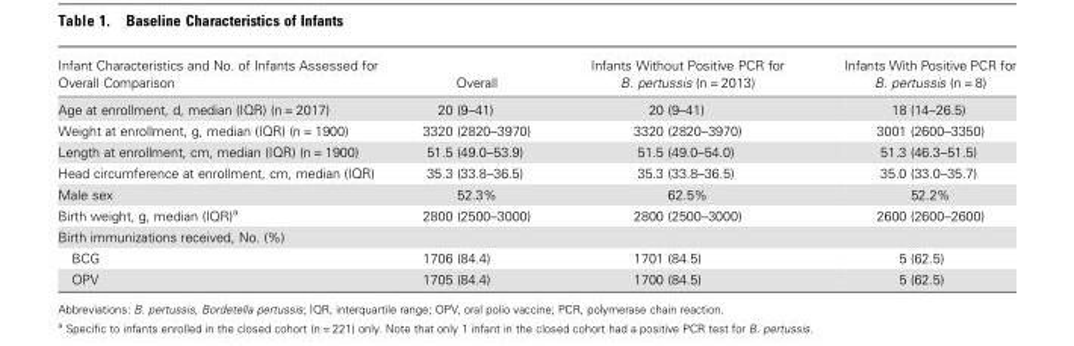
<table><thead><tr><td>Infant Characteristics and No. of Infants Assessed for Overall Comparison</td><td>Overall</td><td>Infants Without Positive PCR for B. pertussis (n = 2013)</td><td>Infants With Positive PCR for B. pertussis (n = 8)</td></tr></thead><tbody><tr><td>Age at enrollment, d, median (IQR) (n = 2017)</td><td>20 (9–41)</td><td>20 (9–41)</td><td>18 (14–26.5)</td></tr><tr><td>Weight at enrollment, g, median (IQR) (n = 1900)</td><td>3320 (2820–3970)</td><td>3320 (2820–3970)</td><td>3001 (2600–3350)</td></tr><tr><td>Length at enrollment, cm, median (IQR) (n = 1900)</td><td>51.5 (49.0–53.9)</td><td>51.5 (49.0–54.0)</td><td>51.3 (46.3–51.5)</td></tr><tr><td>Head circumference at enrollment, cm, median (IQR)</td><td>35.3 (33.8–36.5)</td><td>35.3 (33.8–36.5)</td><td>35.0 (33.0–35.7)</td></tr><tr><td>Male sex</td><td>52.3%</td><td>62.5%</td><td>52.2%</td></tr><tr><td>Birth weight, g, median (IQR)<sup>a</sup></td><td>2800 (2500–3000)</td><td>2800 (2500–3000)</td><td>2600 (2600–2600)</td></tr><tr><td colspan="4">Birth immunizations received, No. (%)</td></tr><tr><td>BCG</td><td>1706 (84.4)</td><td>1701 (84.5)</td><td>5 (62.5)</td></tr><tr><td>OPV</td><td>1705 (84.4)</td><td>1700 (84.5)</td><td>5 (62.5)</td></tr></tbody></table>